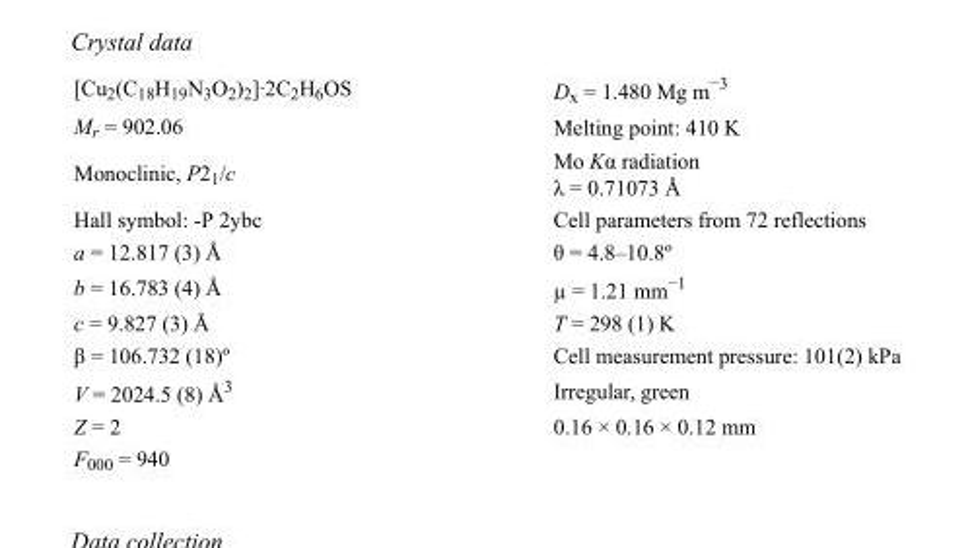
<table><tbody><tr><td>[Cu<sub>2</sub>(C<sub>18</sub>H<sub>19</sub>N<sub>3</sub>O<sub>2</sub>)<sub>2</sub>]·2C<sub>2</sub>H<sub>6</sub>OS</td><td>D<sub>x</sub> = 1.480 Mg m<sup>−3</sup></td></tr><tr><td>M<sub>r</sub> = 902.06</td><td>Melting point: 410 K</td></tr><tr><td>Monoclinic, P2<sub>1</sub>/c</td><td>Mo Kα radiation λ = 0.71073 Å</td></tr><tr><td>Hall symbol: -P 2ybc</td><td>Cell parameters from 72 reflections</td></tr><tr><td>a = 12.817 (3) Å</td><td>θ = 4.8–10.8º</td></tr><tr><td>b = 16.783 (4) Å</td><td>µ = 1.21 mm<sup>−1</sup></td></tr><tr><td>c = 9.827 (3) Å</td><td>T = 298 (1) K</td></tr><tr><td>β = 106.732 (18)º</td><td>Cell measurement pressure: 101(2) kPa</td></tr><tr><td>V = 2024.5 (8) Å<sup>3</sup></td><td>Irregular, green</td></tr><tr><td>Z = 2</td><td>0.16 × 0.16 × 0.12 mm</td></tr><tr><td>F<sub>000</sub> = 940</td><td></td></tr></tbody></table>